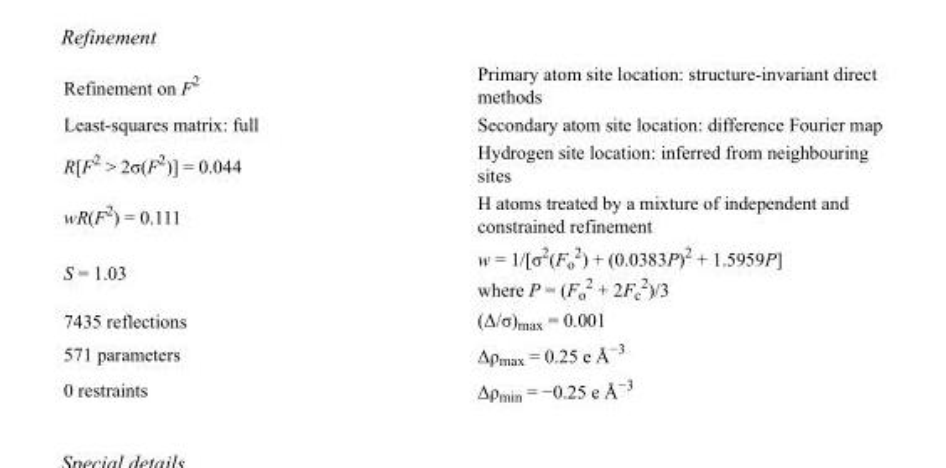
<table><tbody><tr><td>Refinement on F<sup>2</sup></td><td>Primary atom site location: structure-invariant direct methods</td></tr><tr><td>Least-squares matrix: full</td><td>Secondary atom site location: difference Fourier map</td></tr><tr><td>R[F<sup>2</sup> &gt; 2σ(F<sup>2</sup>)] = 0.044</td><td>Hydrogen site location: inferred from neighbouring sites</td></tr><tr><td>wR(F<sup>2</sup>) = 0.111</td><td>H atoms treated by a mixture of independent and constrained refinement</td></tr><tr><td>S = 1.03</td><td>w = 1/[σ<sup>2</sup>(F<sub>o</sub> <sup>2</sup>) + (0.0383P)<sup>2</sup> + 1.5959P] where P = (F<sub>o</sub> <sup>2</sup> + 2F<sub>c</sub> <sup>2</sup>)/3</td></tr><tr><td>7435 reflections</td><td>(Δ/σ)<sub>max</sub> = 0.001</td></tr><tr><td>571 parameters</td><td>Δρ<sub>max</sub> = 0.25 e Å<sup>−3</sup></td></tr><tr><td>0 restraints</td><td>Δρ<sub>min</sub> = −0.25 e Å<sup>−3</sup></td></tr></tbody></table>